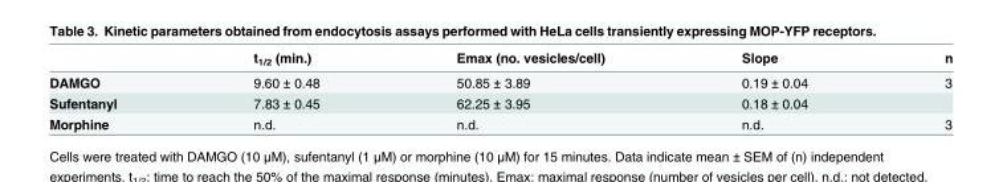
<table><thead><tr><td></td><td>t<sub>1/2</sub> (min.)</td><td>Emax (no. vesicles/cell)</td><td>Slope</td><td>n</td></tr></thead><tbody><tr><td>DAMGO</td><td>9.60 ± 0.48</td><td>50.85 ± 3.89</td><td>0.19 ± 0.04</td><td>3</td></tr><tr><td>Sufentanyl</td><td>7.83 ± 0.45</td><td>62.25 ± 3.95</td><td>0.18 ± 0.04</td><td></td></tr><tr><td>Morphine</td><td>n.d.</td><td>n.d.</td><td>n.d.</td><td>3</td></tr></tbody></table>